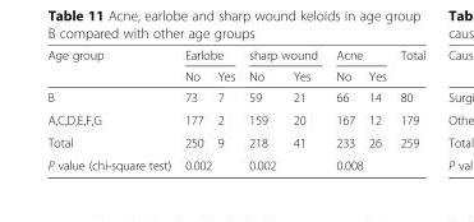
<table><thead><tr><td rowspan="2">Age group</td><td colspan="2">Earlobe</td><td colspan="2">sharp wound</td><td colspan="2">Acne</td><td rowspan="2">Total</td></tr><tr><td>No</td><td>Yes</td><td>No</td><td>Yes</td><td>No</td><td>Yes</td></tr></thead><tbody><tr><td>B</td><td>73</td><td>7</td><td>59</td><td>21</td><td>66</td><td>14</td><td>80</td></tr><tr><td>A,C,D,E,F,G</td><td>177</td><td>2</td><td>159</td><td>20</td><td>167</td><td>12</td><td>179</td></tr><tr><td>Total</td><td>250</td><td>9</td><td>218</td><td>41</td><td>233</td><td>26</td><td>259</td></tr><tr><td>P value (chi-square test)</td><td colspan="2">0.002</td><td colspan="2">0.002</td><td colspan="2">0.008</td><td></td></tr></tbody></table>